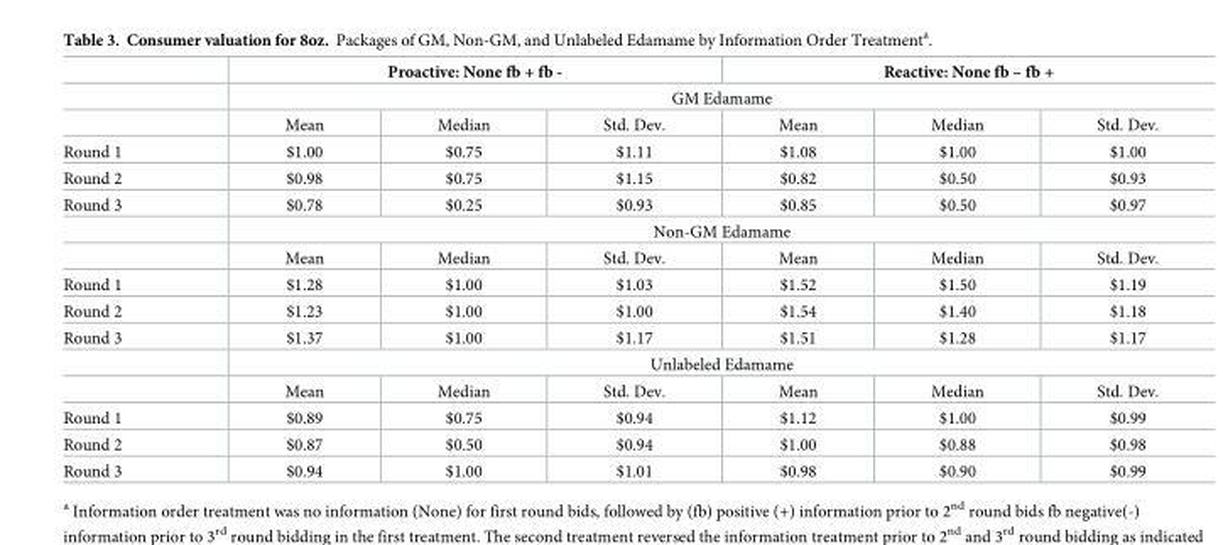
<table><thead><tr><td rowspan="3"></td><td colspan="3">Proactive: None fb + fb -</td><td colspan="3">Reactive: None fb – fb +</td></tr><tr><td colspan="6">GM Edamame</td></tr><tr><td>Mean</td><td>Median</td><td>Std. Dev.</td><td>Mean</td><td>Median</td><td>Std. Dev.</td></tr></thead><tbody><tr><td>Round 1</td><td>$1.00</td><td>$0.75</td><td>$1.11</td><td>$1.08</td><td>$1.00</td><td>$1.00</td></tr><tr><td>Round 2</td><td>$0.98</td><td>$0.75</td><td>$1.15</td><td>$0.82</td><td>$0.50</td><td>$0.93</td></tr><tr><td rowspan="3">Round 3</td><td>$0.78</td><td>$0.25</td><td>$0.93</td><td>$0.85</td><td>$0.50</td><td>$0.97</td></tr><tr><td colspan="6">Non-GM Edamame</td></tr><tr><td>Mean</td><td>Median</td><td>Std. Dev.</td><td>Mean</td><td>Median</td><td>Std. Dev.</td></tr><tr><td>Round 1</td><td>$1.28</td><td>$1.00</td><td>$1.03</td><td>$1.52</td><td>$1.50</td><td>$1.19</td></tr><tr><td>Round 2</td><td>$1.23</td><td>$1.00</td><td>$1.00</td><td>$1.54</td><td>$1.40</td><td>$1.18</td></tr><tr><td rowspan="3">Round 3</td><td>$1.37</td><td>$1.00</td><td>$1.17</td><td>$1.51</td><td>$1.28</td><td>$1.17</td></tr><tr><td colspan="6">Unlabeled Edamame</td></tr><tr><td>Mean</td><td>Median</td><td>Std. Dev.</td><td>Mean</td><td>Median</td><td>Std. Dev.</td></tr><tr><td>Round 1</td><td>$0.89</td><td>$0.75</td><td>$0.94</td><td>$1.12</td><td>$1.00</td><td>$0.99</td></tr><tr><td>Round 2</td><td>$0.87</td><td>$0.50</td><td>$0.94</td><td>$1.00</td><td>$0.88</td><td>$0.98</td></tr><tr><td>Round 3</td><td>$0.94</td><td>$1.00</td><td>$1.01</td><td>$0.98</td><td>$0.90</td><td>$0.99</td></tr></tbody></table>